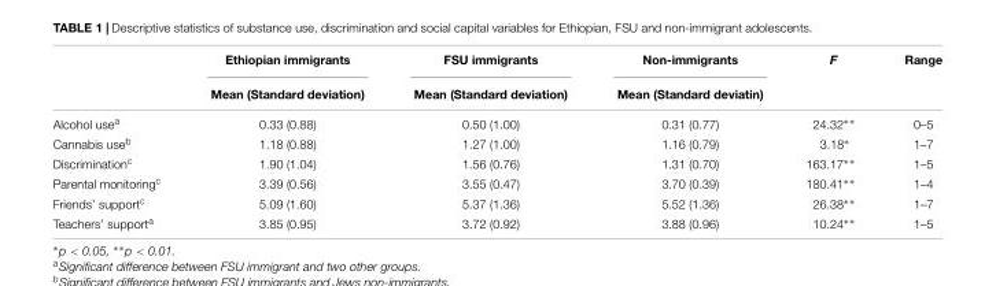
<table><thead><tr><td rowspan="2"></td><td rowspan="2">Ethiopian immigrants Mean (Standard deviation)</td><td rowspan="2">FSU immigrants Mean (Standard deviation)</td><td rowspan="2">Non-immigrants Mean (Standard deviatin)</td><td rowspan="2">F</td><td rowspan="2">Range</td></tr><tr></tr></thead><tbody><tr><td>Alcohol use<sup>a</sup></td><td>0.33 (0.88)</td><td>0.50 (1.00)</td><td>0.31 (0.77)</td><td>24.32∗∗</td><td>0–5</td></tr><tr><td>Cannabis use<sup>b</sup></td><td>1.18 (0.88)</td><td>1.27 (1.00)</td><td>1.16 (0.79)</td><td>3.18∗</td><td>1–7</td></tr><tr><td>Discrimination<sup>c</sup></td><td>1.90 (1.04)</td><td>1.56 (0.76)</td><td>1.31 (0.70)</td><td>163.17∗∗</td><td>1–5</td></tr><tr><td>Parental monitoring<sup>c</sup></td><td>3.39 (0.56)</td><td>3.55 (0.47)</td><td>3.70 (0.39)</td><td>180.41∗∗</td><td>1–4</td></tr><tr><td>Friends’ support<sup>c</sup></td><td>5.09 (1.60)</td><td>5.37 (1.36)</td><td>5.52 (1.36)</td><td>26.38∗∗</td><td>1–7</td></tr><tr><td>Teachers’ support<sup>a</sup></td><td>3.85 (0.95)</td><td>3.72 (0.92)</td><td>3.88 (0.96)</td><td>10.24∗∗</td><td>1–5</td></tr></tbody></table>